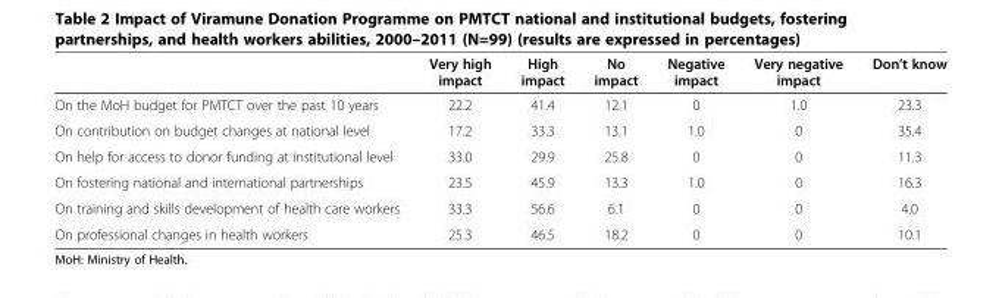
<table><thead><tr><td></td><td>Very high impact</td><td>High impact</td><td>No impact</td><td>Negative impact</td><td>Very negative impact</td><td>Don’t know</td></tr></thead><tbody><tr><td>On the MoH budget for PMTCT over the past 10 years</td><td>22.2</td><td>41.4</td><td>12.1</td><td>0</td><td>1.0</td><td>23.3</td></tr><tr><td>On contribution on budget changes at national level</td><td>17.2</td><td>33.3</td><td>13.1</td><td>1.0</td><td>0</td><td>35.4</td></tr><tr><td>On help for access to donor funding at institutional level</td><td>33.0</td><td>29.9</td><td>25.8</td><td>0</td><td>0</td><td>11.3</td></tr><tr><td>On fostering national and international partnerships</td><td>23.5</td><td>45.9</td><td>13.3</td><td>1.0</td><td>0</td><td>16.3</td></tr><tr><td>On training and skills development of health care workers</td><td>33.3</td><td>56.6</td><td>6.1</td><td>0</td><td>0</td><td>4.0</td></tr><tr><td>On professional changes in health workers</td><td>25.3</td><td>46.5</td><td>18.2</td><td>0</td><td>0</td><td>10.1</td></tr></tbody></table>